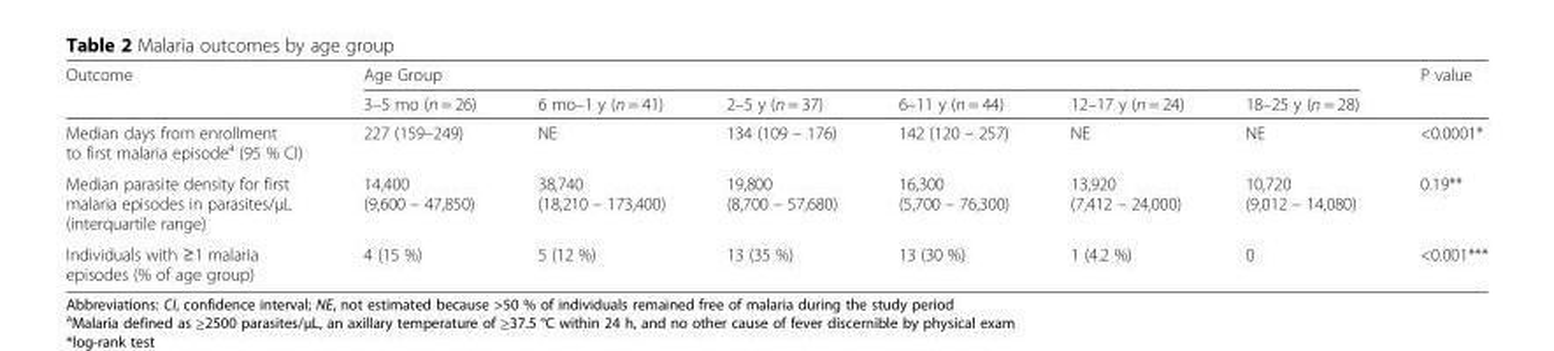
<table><thead><tr><td rowspan="2">Outcome</td><td colspan="6">Age Group</td><td rowspan="2">P value</td></tr><tr><td>3–5 mo (n = 26)</td><td>6 mo–1 y (n = 41)</td><td>2–5 y (n = 37)</td><td>6–11 y (n = 44)</td><td>12–17 y (n = 24)</td><td>18–25 y (n = 28)</td></tr></thead><tbody><tr><td>Median days from enrollment to first malaria episode<sup>a</sup> (95 % CI)</td><td>227 (159–249)</td><td>NE</td><td>134 (109 – 176)</td><td>142 (120 – 257)</td><td>NE</td><td>NE</td><td>&lt;0.0001*</td></tr><tr><td>Median parasite density for first malaria episodes in parasites/μL (interquartile range)</td><td>14,400 (9,600 – 47,850)</td><td>38,740 (18,210 – 173,400)</td><td>19,800 (8,700 – 57,680)</td><td>16,300 (5,700 – 76,300)</td><td>13,920 (7,412 – 24,000)</td><td>10,720 (9,012 – 14,080)</td><td>0.19**</td></tr><tr><td>Individuals with ≥1 malaria episodes (% of age group)</td><td>4 (15 %)</td><td>5 (12 %)</td><td>13 (35 %)</td><td>13 (30 %)</td><td>1 (4.2 %)</td><td>0</td><td>&lt;0.001***</td></tr></tbody></table>